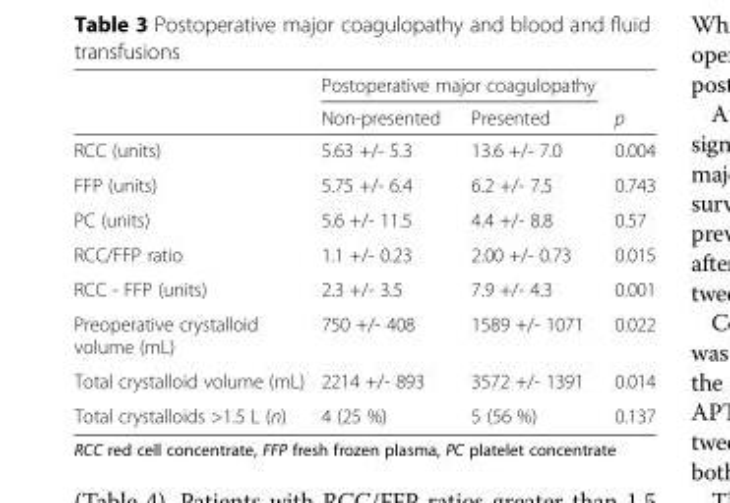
<table><thead><tr><td rowspan="2"></td><td colspan="2">Postoperative major coagulopathy</td><td rowspan="2">p</td></tr><tr><td>Non-presented</td><td>Presented</td></tr></thead><tbody><tr><td>RCC (units)</td><td>5.63 +/- 5.3</td><td>13.6 +/- 7.0</td><td>0.004</td></tr><tr><td>FFP (units)</td><td>5.75 +/- 6.4</td><td>6.2 +/- 7.5</td><td>0.743</td></tr><tr><td>PC (units)</td><td>5.6 +/- 11.5</td><td>4.4 +/- 8.8</td><td>0.57</td></tr><tr><td>RCC/FFP ratio</td><td>1.1 +/- 0.23</td><td>2.00 +/- 0.73</td><td>0.015</td></tr><tr><td>RCC - FFP (units)</td><td>2.3 +/- 3.5</td><td>7.9 +/- 4.3</td><td>0.001</td></tr><tr><td>Preoperative crystalloid volume (mL)</td><td>750 +/- 408</td><td>1589 +/- 1071</td><td>0.022</td></tr><tr><td>Total crystalloid volume (mL)</td><td>2214 +/- 893</td><td>3572 +/- 1391</td><td>0.014</td></tr><tr><td>Total crystalloids &gt;1.5 L (n)</td><td>4 (25 %)</td><td>5 (56 %)</td><td>0.137</td></tr></tbody></table>